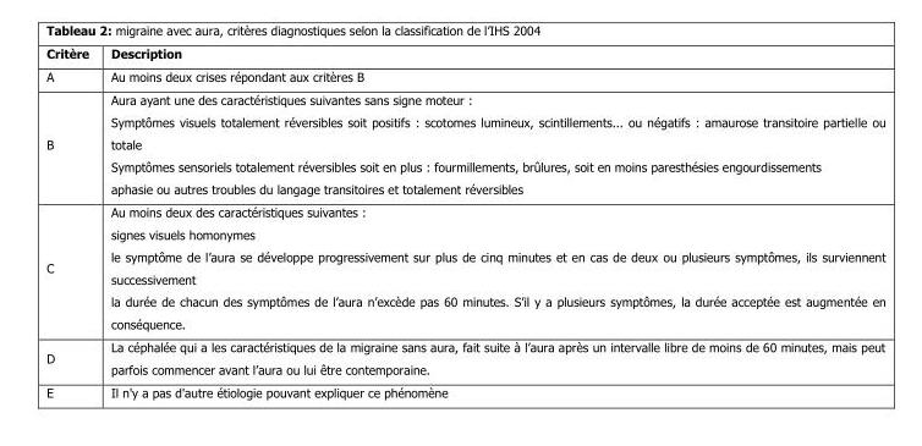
<table><thead><tr><td>Critère</td><td>Description</td></tr></thead><tbody><tr><td>A</td><td>Au moins deux crises répondant aux critères B</td></tr><tr><td>B</td><td>Aura ayant une des caractéristiques suivantes sans signe moteur : Symptômes visuels totalement réversibles soit positifs : scotomes lumineux, scintillements... ou négatifs : amaurose transitoire partielle ou totale Symptômes sensoriels totalement réversibles soit en plus : fourmillements, brûlures, soit en moins paresthésies engourdissements aphasie ou autres troubles du langage transitoires et totalement réversibles</td></tr><tr><td>C</td><td>Au moins deux des caractéristiques suivantes : signes visuels homonymes le symptôme de l’aura se développe progressivement sur plus de cinq minutes et en cas de deux ou plusieurs symptômes, ils surviennent successivement la durée de chacun des symptômes de l’aura n’excède pas 60 minutes. S’il y a plusieurs symptômes, la durée acceptée est augmentée en conséquence.</td></tr><tr><td>D</td><td>La céphalée qui a les caractéristiques de la migraine sans aura, fait suite à l’aura après un intervalle libre de moins de 60 minutes, mais peut parfois commencer avant l’aura ou lui être contemporaine.</td></tr><tr><td>E</td><td>Il n&#x27;y a pas d&#x27;autre étiologie pouvant expliquer ce phénomène</td></tr></tbody></table>